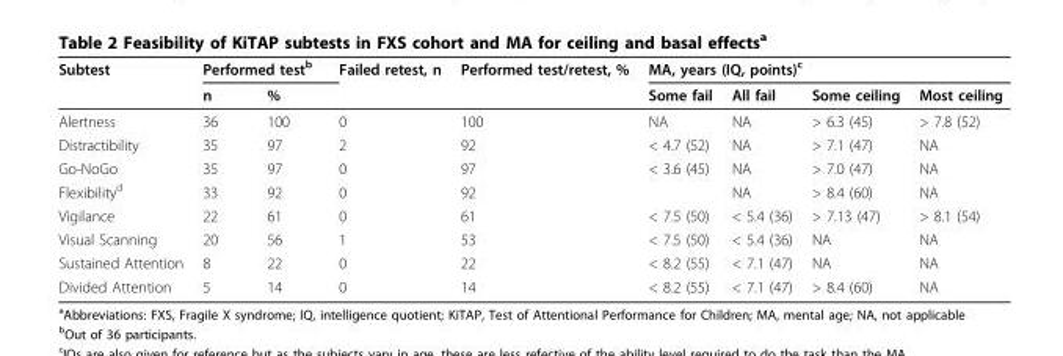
<table><thead><tr><td rowspan="2">Subtest</td><td colspan="2">Performed test<sup>b</sup></td><td rowspan="2">Failed retest, n</td><td rowspan="2">Performed test/retest, %</td><td colspan="4">MA, years (IQ, points)<sup>c</sup></td></tr><tr><td>n</td><td>%</td><td>Some fail</td><td>All fail</td><td>Some ceiling</td><td>Most ceiling</td></tr></thead><tbody><tr><td>Alertness</td><td>36</td><td>100</td><td>0</td><td>100</td><td>NA</td><td>NA</td><td>&gt; 6.3 (45)</td><td>&gt; 7.8 (52)</td></tr><tr><td>Distractibility</td><td>35</td><td>97</td><td>2</td><td>92</td><td>&lt; 4.7 (52)</td><td>NA</td><td>&gt; 7.1 (47)</td><td>NA</td></tr><tr><td>Go-NoGo</td><td>35</td><td>97</td><td>0</td><td>97</td><td>&lt; 3.6 (45)</td><td>NA</td><td>&gt; 7.0 (47)</td><td>NA</td></tr><tr><td>Flexibility<sup>d</sup></td><td>33</td><td>92</td><td>0</td><td>92</td><td></td><td>NA</td><td>&gt; 8.4 (60)</td><td>NA</td></tr><tr><td>Vigilance</td><td>22</td><td>61</td><td>0</td><td>61</td><td>&lt; 7.5 (50)</td><td>&lt; 5.4 (36)</td><td>&gt; 7.13 (47)</td><td>&gt; 8.1 (54)</td></tr><tr><td>Visual Scanning</td><td>20</td><td>56</td><td>1</td><td>53</td><td>&lt; 7.5 (50)</td><td>&lt; 5.4 (36)</td><td>NA</td><td>NA</td></tr><tr><td>Sustained Attention</td><td>8</td><td>22</td><td>0</td><td>22</td><td>&lt; 8.2 (55)</td><td>&lt; 7.1 (47)</td><td>NA</td><td>NA</td></tr><tr><td>Divided Attention</td><td>5</td><td>14</td><td>0</td><td>14</td><td>&lt; 8.2 (55)</td><td>&lt; 7.1 (47)</td><td>&gt; 8.4 (60)</td><td>NA</td></tr></tbody></table>